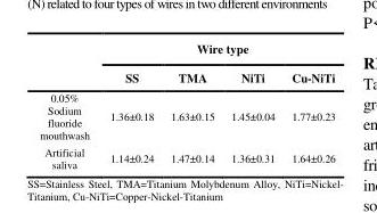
<table><thead><tr><td rowspan="2"></td><td colspan="4">Wire type</td></tr><tr><td>SS</td><td>TMA</td><td>NiTi</td><td>Cu-NiTi</td></tr></thead><tbody><tr><td>0.05% Sodium fluoride mouthwash</td><td>1.36±0.18</td><td>1.63±0.15</td><td>1.45±0.04</td><td>1.77±0.23</td></tr><tr><td>Artificial saliva</td><td>1.14±0.24</td><td>1.47±0.14</td><td>1.36±0.31</td><td>1.64±0.26</td></tr></tbody></table>